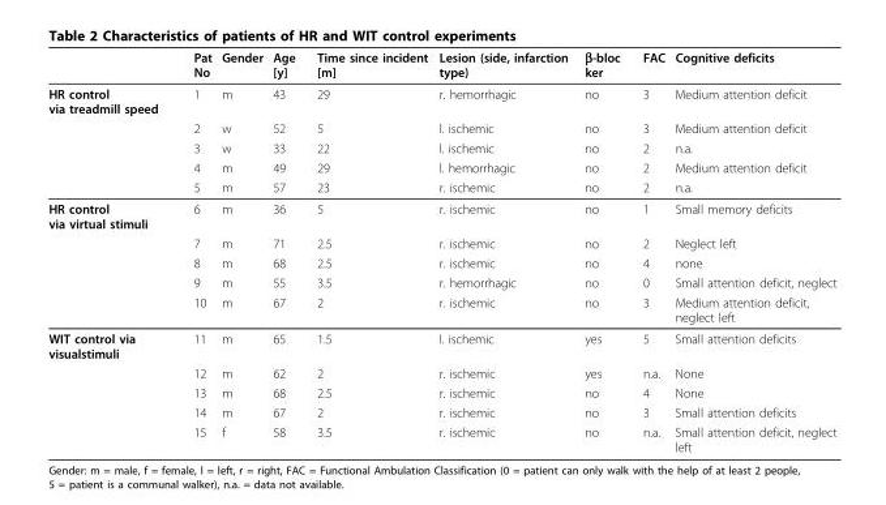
<table><thead><tr><td></td><td>Pat No</td><td>Gender</td><td>Age [y]</td><td>Time since incident [m]</td><td>Lesion (side, infarction type)</td><td>β-bloc ker</td><td>FAC</td><td>Cognitive deficits</td></tr></thead><tbody><tr><td rowspan="5">HR control via treadmill speed</td><td>1</td><td>m</td><td>43</td><td>29</td><td>r. hemorrhagic</td><td>no</td><td>3</td><td>Medium attention deficit</td></tr><tr><td>2</td><td>w</td><td>52</td><td>5</td><td>l. ischemic</td><td>no</td><td>3</td><td>Medium attention deficit</td></tr><tr><td>3</td><td>w</td><td>33</td><td>22</td><td>l. ischemic</td><td>no</td><td>2</td><td>n.a.</td></tr><tr><td>4</td><td>m</td><td>49</td><td>29</td><td>l. hemorrhagic</td><td>no</td><td>2</td><td>Medium attention deficit</td></tr><tr><td>5</td><td>m</td><td>57</td><td>23</td><td>r. ischemic</td><td>no</td><td>2</td><td>n.a.</td></tr><tr><td rowspan="5">HR control via virtual stimuli</td><td>6</td><td>m</td><td>36</td><td>5</td><td>r. ischemic</td><td>no</td><td>1</td><td>Small memory deficits</td></tr><tr><td>7</td><td>m</td><td>71</td><td>2.5</td><td>r. ischemic</td><td>no</td><td>2</td><td>Neglect left</td></tr><tr><td>8</td><td>m</td><td>68</td><td>2.5</td><td>r. ischemic</td><td>no</td><td>4</td><td>none</td></tr><tr><td>9</td><td>m</td><td>55</td><td>3.5</td><td>r. hemorrhagic</td><td>no</td><td>0</td><td>Small attention deficit, neglect</td></tr><tr><td>10</td><td>m</td><td>67</td><td>2</td><td>r. ischemic</td><td>no</td><td>3</td><td>Medium attention deficit, neglect left</td></tr><tr><td rowspan="5">WIT control via visualstimuli</td><td>11</td><td>m</td><td>65</td><td>1.5</td><td>l. ischemic</td><td>yes</td><td>5</td><td>Small attention deficits</td></tr><tr><td>12</td><td>m</td><td>62</td><td>2</td><td>r. ischemic</td><td>yes</td><td>n.a.</td><td>None</td></tr><tr><td>13</td><td>m</td><td>68</td><td>2.5</td><td>r. ischemic</td><td>no</td><td>4</td><td>None</td></tr><tr><td>14</td><td>m</td><td>67</td><td>2</td><td>r. ischemic</td><td>no</td><td>3</td><td>Small attention deficits</td></tr><tr><td>15</td><td>f</td><td>58</td><td>3.5</td><td>r. ischemic</td><td>no</td><td>n.a.</td><td>Small attention deficit, neglect left</td></tr></tbody></table>